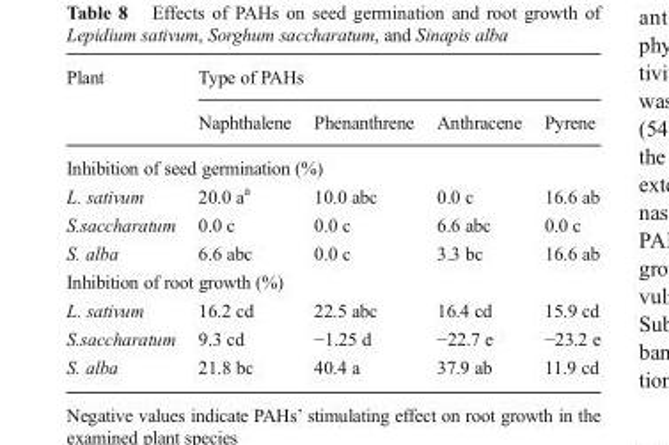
<table><thead><tr><td rowspan="2">Plant</td><td colspan="4">Type of PAHs</td></tr><tr><td>Naphthalene</td><td>Phenanthrene</td><td>Anthracene</td><td>Pyrene</td></tr></thead><tbody><tr><td colspan="5">Inhibition of seed germination (%)</td></tr><tr><td>L. sativum</td><td>20.0 a<sup>a</sup></td><td>10.0 abc</td><td>0.0 c</td><td>16.6 ab</td></tr><tr><td>S.saccharatum</td><td>0.0 c</td><td>0.0 c</td><td>6.6 abc</td><td>0.0 c</td></tr><tr><td>S. alba</td><td>6.6 abc</td><td>0.0 c</td><td>3.3 bc</td><td>16.6 ab</td></tr><tr><td colspan="5">Inhibition of root growth (%)</td></tr><tr><td>L. sativum</td><td>16.2 cd</td><td>22.5 abc</td><td>16.4 cd</td><td>15.9 cd</td></tr><tr><td>S.saccharatum</td><td>9.3 cd</td><td>−1.25 d</td><td>−22.7 e</td><td>−23.2 e</td></tr><tr><td>S. alba</td><td>21.8 bc</td><td>40.4 a</td><td>37.9 ab</td><td>11.9 cd</td></tr></tbody></table>